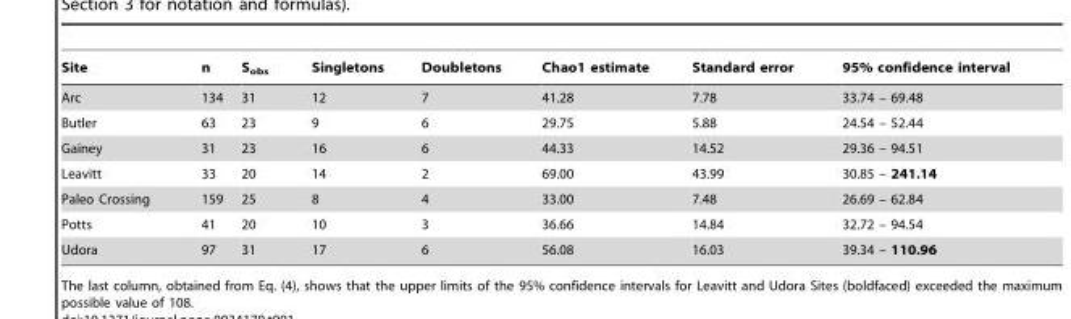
<table><thead><tr><td>Site</td><td>n</td><td>S<sub>obs</sub></td><td>Singletons</td><td>Doubletons</td><td>Chao1 estimate</td><td>Standard error</td><td>95% confidence interval</td></tr></thead><tbody><tr><td>Arc</td><td>134</td><td>31</td><td>12</td><td>7</td><td>41.28</td><td>7.78</td><td>33.74 – 69.48</td></tr><tr><td>Butler</td><td>63</td><td>23</td><td>9</td><td>6</td><td>29.75</td><td>5.88</td><td>24.54 – 52.44</td></tr><tr><td>Gainey</td><td>31</td><td>23</td><td>16</td><td>6</td><td>44.33</td><td>14.52</td><td>29.36 – 94.51</td></tr><tr><td>Leavitt</td><td>33</td><td>20</td><td>14</td><td>2</td><td>69.00</td><td>43.99</td><td>30.85 – 241.14</td></tr><tr><td>Paleo Crossing</td><td>159</td><td>25</td><td>8</td><td>4</td><td>33.00</td><td>7.48</td><td>26.69 – 62.84</td></tr><tr><td>Potts</td><td>41</td><td>20</td><td>10</td><td>3</td><td>36.66</td><td>14.84</td><td>32.72 – 94.54</td></tr><tr><td>Udora</td><td>97</td><td>31</td><td>17</td><td>6</td><td>56.08</td><td>16.03</td><td>39.34 – 110.96</td></tr></tbody></table>